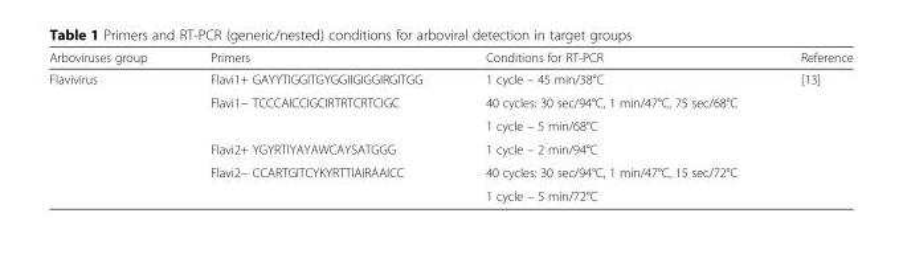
<table><thead><tr><td>Arboviruses group</td><td>Primers</td><td>Conditions for RT-PCR</td><td>Reference</td></tr></thead><tbody><tr><td rowspan="6">Flavivirus</td><td>Flavi1+ GAYYTIGGITGYGGIIGIGGIRGITGG</td><td>1 cycle – 45 min/38°C</td><td rowspan="6">[13]</td></tr><tr><td rowspan="2">Flavi1− TCCCAICCIGCIRTRTCRTCIGC</td><td>40 cycles: 30 sec/94°C, 1 min/47°C, 75 sec/68°C</td></tr><tr><td>1 cycle – 5 min/68°C</td></tr><tr><td>Flavi2+ YGYRTIYAYAWCAYSATGGG</td><td>1 cycle – 2 min/94°C</td></tr><tr><td rowspan="2">Flavi2− CCARTGITCYKYRTTIAIRAAICC</td><td>40 cycles: 30 sec/94°C, 1 min/47°C, 15 sec/72°C</td></tr><tr><td>1 cycle – 5 min/72°C</td></tr></tbody></table>